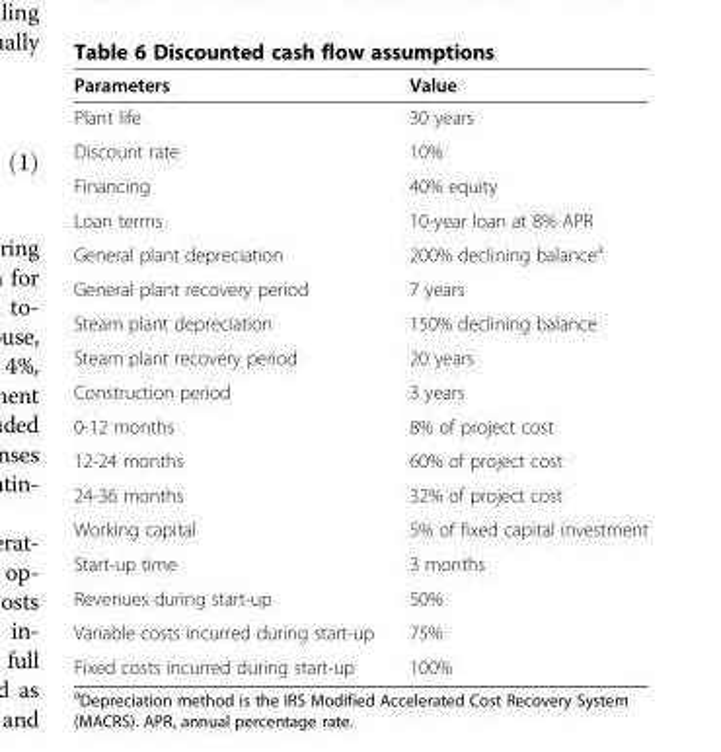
<table><thead><tr><td>Parameters</td><td>Value</td></tr></thead><tbody><tr><td>Plant life</td><td>30 years</td></tr><tr><td>Discount rate</td><td>10%</td></tr><tr><td>Financing</td><td>40% equity</td></tr><tr><td>Loan terms</td><td>10-year loan at 8% APR</td></tr><tr><td>General plant depreciation</td><td>200% declining balance<sup>a</sup></td></tr><tr><td>General plant recovery period</td><td>7 years</td></tr><tr><td>Steam plant depreciation</td><td>150% declining balance</td></tr><tr><td>Steam plant recovery period</td><td>20 years</td></tr><tr><td>Construction period</td><td>3 years</td></tr><tr><td>0-12 months</td><td>8% of project cost</td></tr><tr><td>12-24 months</td><td>60% of project cost</td></tr><tr><td>24-36 months</td><td>32% of project cost</td></tr><tr><td>Working capital</td><td>5% of fixed capital investment</td></tr><tr><td>Start-up time</td><td>3 months</td></tr><tr><td>Revenues during start-up</td><td>50%</td></tr><tr><td>Variable costs incurred during start-up</td><td>75%</td></tr><tr><td>Fixed costs incurred during start-up</td><td>100%</td></tr></tbody></table>